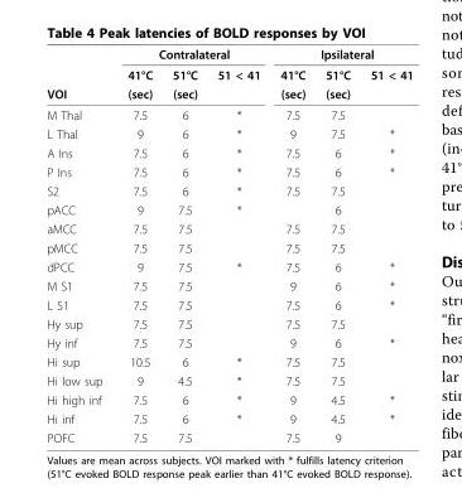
<table><thead><tr><td rowspan="2"></td><td colspan="3">Contralateral</td><td colspan="3">Ipsilateral</td></tr><tr><td>41°C</td><td>51°C</td><td>51 &lt; 41</td><td>41°C</td><td>51°C</td><td>51 &lt; 41</td></tr></thead><tbody><tr><td>VOI</td><td>(sec)</td><td>(sec)</td><td></td><td>(sec)</td><td>(sec)</td><td></td></tr><tr><td>M Thal</td><td>7.5</td><td>6</td><td>*</td><td>7.5</td><td>7.5</td><td></td></tr><tr><td>L Thal</td><td>9</td><td>6</td><td>*</td><td>9</td><td>7.5</td><td>*</td></tr><tr><td>A Ins</td><td>7.5</td><td>6</td><td>*</td><td>7.5</td><td>6</td><td>*</td></tr><tr><td>P Ins</td><td>7.5</td><td>6</td><td>*</td><td>7.5</td><td>6</td><td>*</td></tr><tr><td>S2</td><td>7.5</td><td>6</td><td>*</td><td>7.5</td><td>7.5</td><td></td></tr><tr><td>pACC</td><td>9</td><td>7.5</td><td>*</td><td></td><td>6</td><td></td></tr><tr><td>aMCC</td><td>7.5</td><td>7.5</td><td></td><td>7.5</td><td>7.5</td><td></td></tr><tr><td>pMCC</td><td>7.5</td><td>7.5</td><td></td><td>7.5</td><td>7.5</td><td></td></tr><tr><td>dPCC</td><td>9</td><td>7.5</td><td>*</td><td>7.5</td><td>6</td><td>*</td></tr><tr><td>M S1</td><td>7.5</td><td>7.5</td><td></td><td>9</td><td>6</td><td>*</td></tr><tr><td>L S1</td><td>7.5</td><td>7.5</td><td></td><td>7.5</td><td>6</td><td>*</td></tr><tr><td>Hy sup</td><td>7.5</td><td>7.5</td><td></td><td>7.5</td><td>7.5</td><td></td></tr><tr><td>Hy inf</td><td>7.5</td><td>7.5</td><td></td><td>9</td><td>6</td><td>*</td></tr><tr><td>Hi sup</td><td>10.5</td><td>6</td><td>*</td><td>7.5</td><td>7.5</td><td></td></tr><tr><td>Hi low sup</td><td>9</td><td>4.5</td><td>*</td><td>7.5</td><td>7.5</td><td></td></tr><tr><td>Hi high inf</td><td>7.5</td><td>6</td><td>*</td><td>9</td><td>4.5</td><td>*</td></tr><tr><td>Hi inf</td><td>7.5</td><td>6</td><td>*</td><td>9</td><td>4.5</td><td>*</td></tr><tr><td>POFC</td><td>7.5</td><td>7.5</td><td></td><td>7.5</td><td>9</td><td></td></tr></tbody></table>